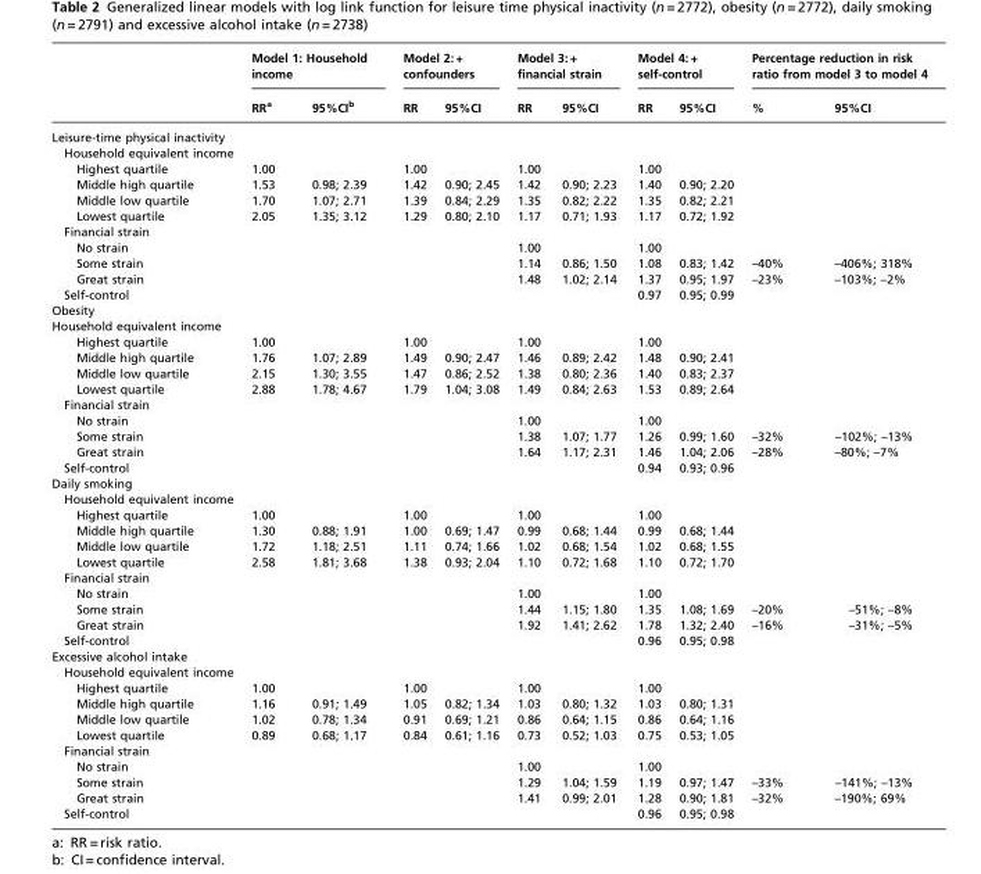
<table><thead><tr><td rowspan="2"></td><td colspan="2">Model 1: Household income</td><td colspan="2">Model 2: + confounders</td><td colspan="2">Model 3: + financial strain</td><td colspan="2">Model 4: + self-control</td><td colspan="2">Percentage reduction in risk ratio from model 3 to model 4</td></tr><tr><td>RR<sup>a</sup></td><td>95%CI<sup>b</sup></td><td>RR</td><td>95%CI</td><td>RR</td><td>95%CI</td><td>RR</td><td>95%CI</td><td>%</td><td>95%CI</td></tr></thead><tbody><tr><td colspan="11">Leisure-time physical inactivity</td></tr><tr><td colspan="11">Household equivalent income</td></tr><tr><td>Highest quartile</td><td>1.00</td><td></td><td>1.00</td><td></td><td>1.00</td><td></td><td>1.00</td><td></td><td></td><td></td></tr><tr><td>Middle high quartile</td><td>1.53</td><td>0.98; 2.39</td><td>1.42</td><td>0.90; 2.45</td><td>1.42</td><td>0.90; 2.23</td><td>1.40</td><td>0.90; 2.20</td><td></td><td></td></tr><tr><td>Middle low quartile</td><td>1.70</td><td>1.07; 2.71</td><td>1.39</td><td>0.84; 2.29</td><td>1.35</td><td>0.82; 2.22</td><td>1.35</td><td>0.82; 2.21</td><td></td><td></td></tr><tr><td>Lowest quartile</td><td>2.05</td><td>1.35; 3.12</td><td>1.29</td><td>0.80; 2.10</td><td>1.17</td><td>0.71; 1.93</td><td>1.17</td><td>0.72; 1.92</td><td></td><td></td></tr><tr><td colspan="11">Financial strain</td></tr><tr><td>No strain</td><td></td><td></td><td></td><td></td><td>1.00</td><td></td><td>1.00</td><td></td><td></td><td></td></tr><tr><td>Some strain</td><td></td><td></td><td></td><td></td><td>1.14</td><td>0.86; 1.50</td><td>1.08</td><td>0.83; 1.42</td><td>–40%</td><td>–406%; 318%</td></tr><tr><td>Great strain</td><td></td><td></td><td></td><td></td><td>1.48</td><td>1.02; 2.14</td><td>1.37</td><td>0.95; 1.97</td><td>–23%</td><td>–103%; –2%</td></tr><tr><td>Self-control</td><td></td><td></td><td></td><td></td><td></td><td></td><td>0.97</td><td>0.95; 0.99</td><td></td><td></td></tr><tr><td colspan="11">Obesity</td></tr><tr><td colspan="11">Household equivalent income</td></tr><tr><td>Highest quartile</td><td>1.00</td><td></td><td>1.00</td><td></td><td>1.00</td><td></td><td>1.00</td><td></td><td></td><td></td></tr><tr><td>Middle high quartile</td><td>1.76</td><td>1.07; 2.89</td><td>1.49</td><td>0.90; 2.47</td><td>1.46</td><td>0.89; 2.42</td><td>1.48</td><td>0.90; 2.41</td><td></td><td></td></tr><tr><td>Middle low quartile</td><td>2.15</td><td>1.30; 3.55</td><td>1.47</td><td>0.86; 2.52</td><td>1.38</td><td>0.80; 2.36</td><td>1.40</td><td>0.83; 2.37</td><td></td><td></td></tr><tr><td>Lowest quartile</td><td>2.88</td><td>1.78; 4.67</td><td>1.79</td><td>1.04; 3.08</td><td>1.49</td><td>0.84; 2.63</td><td>1.53</td><td>0.89; 2.64</td><td></td><td></td></tr><tr><td colspan="11">Financial strain</td></tr><tr><td>No strain</td><td></td><td></td><td></td><td></td><td>1.00</td><td></td><td>1.00</td><td></td><td></td><td></td></tr><tr><td>Some strain</td><td></td><td></td><td></td><td></td><td>1.38</td><td>1.07; 1.77</td><td>1.26</td><td>0.99; 1.60</td><td>–32%</td><td>–102%; –13%</td></tr><tr><td>Great strain</td><td></td><td></td><td></td><td></td><td>1.64</td><td>1.17; 2.31</td><td>1.46</td><td>1.04; 2.06</td><td>–28%</td><td>–80%; –7%</td></tr><tr><td>Self-control</td><td></td><td></td><td></td><td></td><td></td><td></td><td>0.94</td><td>0.93; 0.96</td><td></td><td></td></tr><tr><td colspan="11">Daily smoking</td></tr><tr><td colspan="11">Household equivalent income</td></tr><tr><td>Highest quartile</td><td>1.00</td><td></td><td>1.00</td><td></td><td>1.00</td><td></td><td>1.00</td><td></td><td></td><td></td></tr><tr><td>Middle high quartile</td><td>1.30</td><td>0.88; 1.91</td><td>1.00</td><td>0.69; 1.47</td><td>0.99</td><td>0.68; 1.44</td><td>0.99</td><td>0.68; 1.44</td><td></td><td></td></tr><tr><td>Middle low quartile</td><td>1.72</td><td>1.18; 2.51</td><td>1.11</td><td>0.74; 1.66</td><td>1.02</td><td>0.68; 1.54</td><td>1.02</td><td>0.68; 1.55</td><td></td><td></td></tr><tr><td>Lowest quartile</td><td>2.58</td><td>1.81; 3.68</td><td>1.38</td><td>0.93; 2.04</td><td>1.10</td><td>0.72; 1.68</td><td>1.10</td><td>0.72; 1.70</td><td></td><td></td></tr><tr><td colspan="11">Financial strain</td></tr><tr><td>No strain</td><td></td><td></td><td></td><td></td><td>1.00</td><td></td><td>1.00</td><td></td><td></td><td></td></tr><tr><td>Some strain</td><td></td><td></td><td></td><td></td><td>1.44</td><td>1.15; 1.80</td><td>1.35</td><td>1.08; 1.69</td><td>–20%</td><td>–51%; –8%</td></tr><tr><td>Great strain</td><td></td><td></td><td></td><td></td><td>1.92</td><td>1.41; 2.62</td><td>1.78</td><td>1.32; 2.40</td><td>–16%</td><td>–31%; –5%</td></tr><tr><td>Self-control</td><td></td><td></td><td></td><td></td><td></td><td></td><td>0.96</td><td>0.95; 0.98</td><td></td><td></td></tr><tr><td colspan="11">Excessive alcohol intake</td></tr><tr><td colspan="11">Household equivalent income</td></tr><tr><td>Highest quartile</td><td>1.00</td><td></td><td>1.00</td><td></td><td>1.00</td><td></td><td>1.00</td><td></td><td></td><td></td></tr><tr><td>Middle high quartile</td><td>1.16</td><td>0.91; 1.49</td><td>1.05</td><td>0.82; 1.34</td><td>1.03</td><td>0.80; 1.32</td><td>1.03</td><td>0.80; 1.31</td><td></td><td></td></tr><tr><td>Middle low quartile</td><td>1.02</td><td>0.78; 1.34</td><td>0.91</td><td>0.69; 1.21</td><td>0.86</td><td>0.64; 1.15</td><td>0.86</td><td>0.64; 1.16</td><td></td><td></td></tr><tr><td>Lowest quartile</td><td>0.89</td><td>0.68; 1.17</td><td>0.84</td><td>0.61; 1.16</td><td>0.73</td><td>0.52; 1.03</td><td>0.75</td><td>0.53; 1.05</td><td></td><td></td></tr><tr><td colspan="11">Financial strain</td></tr><tr><td>No strain</td><td></td><td></td><td></td><td></td><td>1.00</td><td></td><td>1.00</td><td></td><td></td><td></td></tr><tr><td>Some strain</td><td></td><td></td><td></td><td></td><td>1.29</td><td>1.04; 1.59</td><td>1.19</td><td>0.97; 1.47</td><td>–33%</td><td>–141%; –13%</td></tr><tr><td>Great strain</td><td></td><td></td><td></td><td></td><td>1.41</td><td>0.99; 2.01</td><td>1.28</td><td>0.90; 1.81</td><td>–32%</td><td>–190%; 69%</td></tr><tr><td>Self-control</td><td></td><td></td><td></td><td></td><td></td><td></td><td>0.96</td><td>0.95; 0.98</td><td></td><td></td></tr></tbody></table>